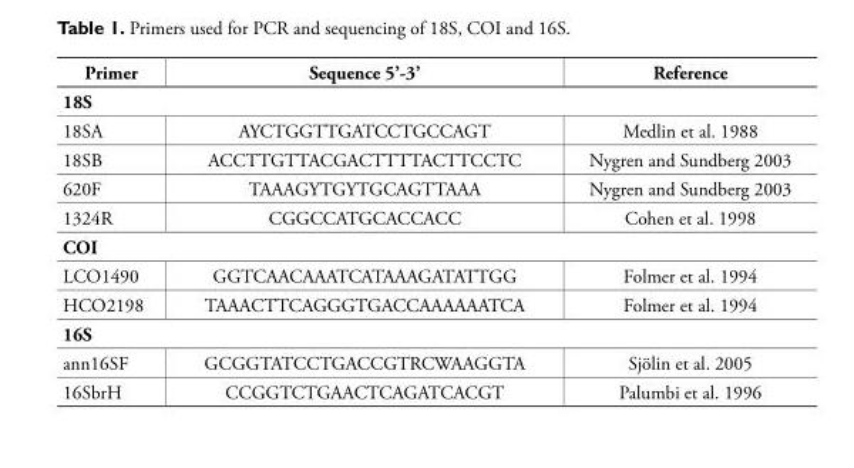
<table><thead><tr><td>Primer</td><td>Sequence 5’-3’</td><td>Reference</td></tr></thead><tbody><tr><td colspan="3">18S</td></tr><tr><td>18SA</td><td>AYCTGGTTGATCCTGCCAGT</td><td>Medlin et al. 1988</td></tr><tr><td>18SB</td><td>ACCTTGTTACGACTTTTACTTCCTC</td><td>Nygren and Sundberg 2003</td></tr><tr><td>620F</td><td>TAAAGYTGYTGCAGTTAAA</td><td>Nygren and Sundberg 2003</td></tr><tr><td>1324R</td><td>CGGCCATGCACCACC</td><td>Cohen et al. 1998</td></tr><tr><td colspan="3">COI</td></tr><tr><td>LCO1490</td><td>GGTCAACAAATCATAAAGATATTGG</td><td>Folmer et al. 1994</td></tr><tr><td>HCO2198</td><td>TAAACTTCAGGGTGACCAAAAAATCA</td><td>Folmer et al. 1994</td></tr><tr><td colspan="3">16S</td></tr><tr><td>ann16SF</td><td>GCGGTATCCTGACCGTRCWAAGGTA</td><td>Sjölin et al. 2005</td></tr><tr><td>16SbrH</td><td>CCGGTCTGAACTCAGATCACGT</td><td>Palumbi et al. 1996</td></tr></tbody></table>